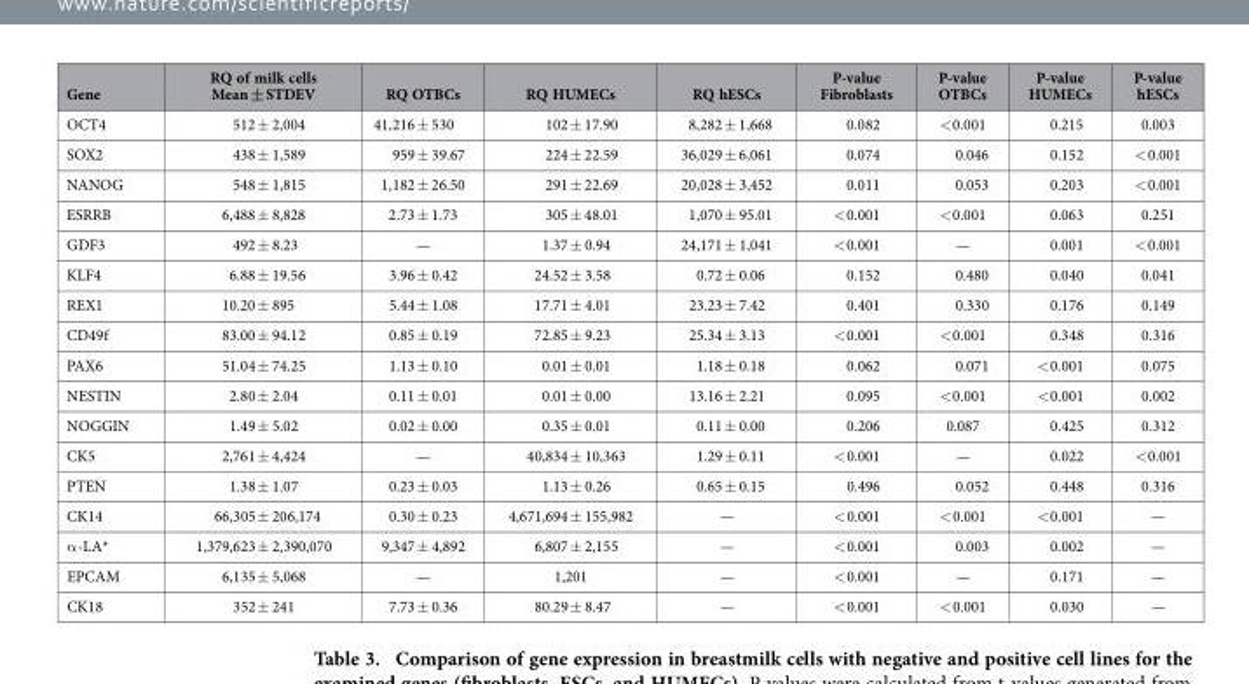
<table><thead><tr><td>Gene</td><td>RQ of milk cells Mean ± STDEV</td><td>RQ OTBCs</td><td>RQ HUMECs</td><td>RQ hESCs</td><td>P-value Fibroblasts</td><td>P-value OTBCs</td><td>P-value HUMECs</td><td>P-value hESCs</td></tr></thead><tbody><tr><td>OCT4</td><td>512 ± 2,004</td><td>41,216 ± 530</td><td>102 ± 17.90</td><td>8,282 ± 1,668</td><td>0.082</td><td>&lt; 0.001</td><td>0.215</td><td>0.003</td></tr><tr><td>SOX2</td><td>438 ± 1,589</td><td>959 ± 39.67</td><td>224 ± 22.59</td><td>36,029 ± 6,061</td><td>0.074</td><td>0.046</td><td>0.152</td><td>&lt; 0.001</td></tr><tr><td>NANOG</td><td>548 ± 1,815</td><td>1,182 ± 26.50</td><td>291 ± 22.69</td><td>20,028 ± 3,452</td><td>0.011</td><td>0.053</td><td>0.203</td><td>&lt; 0.001</td></tr><tr><td>ESRRB</td><td>6,488 ± 8,828</td><td>2.73 ± 1.73</td><td>305 ± 48.01</td><td>1,070 ± 95.01</td><td>&lt; 0.001</td><td>&lt; 0.001</td><td>0.063</td><td>0.251</td></tr><tr><td>GDF3</td><td>492 ± 8.23</td><td>—</td><td>1.37 ± 0.94</td><td>24,171 ± 1,041</td><td>&lt; 0.001</td><td>—</td><td>0.001</td><td>&lt; 0.001</td></tr><tr><td>KLF4</td><td>6.88 ± 19.56</td><td>3.96 ± 0.42</td><td>24.52 ± 3.58</td><td>0.72 ± 0.06</td><td>0.152</td><td>0.480</td><td>0.040</td><td>0.041</td></tr><tr><td>REX1</td><td>10.20 ± 895</td><td>5.44 ± 1.08</td><td>17.71 ± 4.01</td><td>23.23 ± 7.42</td><td>0.401</td><td>0.330</td><td>0.176</td><td>0.149</td></tr><tr><td>CD49f</td><td>83.00 ± 94.12</td><td>0.85 ± 0.19</td><td>72.85 ± 9.23</td><td>25.34 ± 3.13</td><td>&lt; 0.001</td><td>&lt; 0.001</td><td>0.348</td><td>0.316</td></tr><tr><td>PAX6</td><td>51.04 ± 74.25</td><td>1.13 ± 0.10</td><td>0.01 ± 0.01</td><td>1.18 ± 0.18</td><td>0.062</td><td>0.071</td><td>&lt; 0.001</td><td>0.075</td></tr><tr><td>NESTIN</td><td>2.80 ± 2.04</td><td>0.11 ± 0.01</td><td>0.01 ± 0.00</td><td>13.16 ± 2.21</td><td>0.095</td><td>&lt; 0.001</td><td>&lt; 0.001</td><td>0.002</td></tr><tr><td>NOGGIN</td><td>1.49 ± 5.02</td><td>0.02 ± 0.00</td><td>0.35 ± 0.01</td><td>0.11 ± 0.00</td><td>0.206</td><td>0.087</td><td>0.425</td><td>0.312</td></tr><tr><td>CK5</td><td>2,761 ± 4,424</td><td>—</td><td>40,834 ± 10,363</td><td>1.29 ± 0.11</td><td>&lt; 0.001</td><td>—</td><td>0.022</td><td>&lt; 0.001</td></tr><tr><td>PTEN</td><td>1.38 ± 1.07</td><td>0.23 ± 0.03</td><td>1.13 ± 0.26</td><td>0.65 ± 0.15</td><td>0.496</td><td>0.052</td><td>0.448</td><td>0.316</td></tr><tr><td>CK14</td><td>66,305 ± 206,174</td><td>0.30 ± 0.23</td><td>4,671,694 ± 155,982</td><td>—</td><td>&lt; 0.001</td><td>&lt; 0.001</td><td>&lt; 0.001</td><td>—</td></tr><tr><td>α -LA*</td><td>1,379,623 ± 2,390,070</td><td>9,347 ± 4,892</td><td>6,807 ± 2,155</td><td>—</td><td>&lt; 0.001</td><td>0.003</td><td>0.002</td><td>—</td></tr><tr><td>EPCAM</td><td>6,135 ± 5,068</td><td>—</td><td>1,201</td><td>—</td><td>&lt; 0.001</td><td>—</td><td>0.171</td><td>—</td></tr><tr><td>CK18</td><td>352 ± 241</td><td>7.73 ± 0.36</td><td>80.29 ± 8.47</td><td>—</td><td>&lt; 0.001</td><td>&lt; 0.001</td><td>0.030</td><td>—</td></tr></tbody></table>